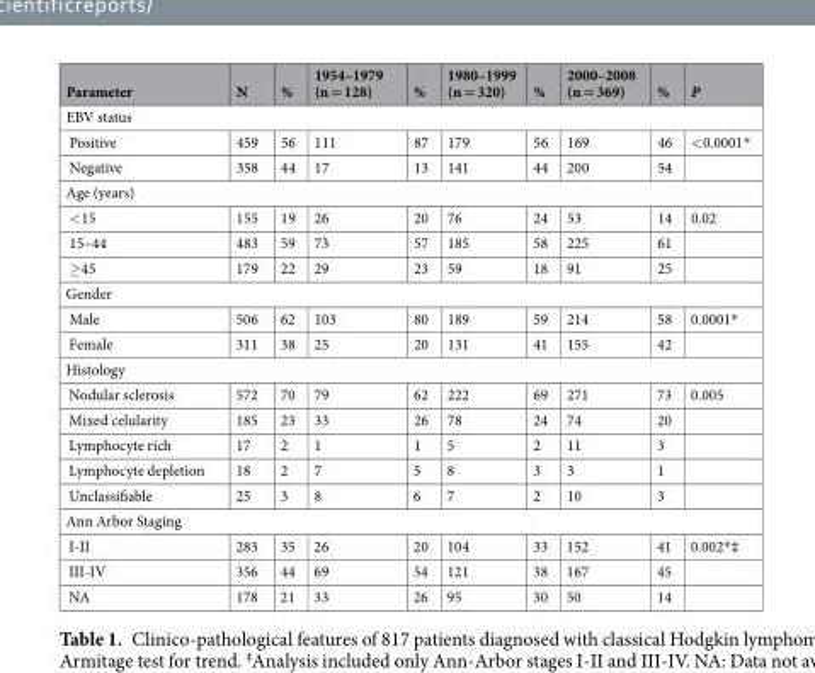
<table><thead><tr><td>Parameter</td><td>N</td><td>%</td><td>1954–1979 (n = 128)</td><td>%</td><td>1980–1999 (n = 320)</td><td>%</td><td>2000–2008 (n = 369)</td><td>%</td><td>P</td></tr></thead><tbody><tr><td colspan="10">EBV status</td></tr><tr><td>Positive</td><td>459</td><td>56</td><td>111</td><td>87</td><td>179</td><td>56</td><td>169</td><td>46</td><td>&lt;0.0001*</td></tr><tr><td>Negative</td><td>358</td><td>44</td><td>17</td><td>13</td><td>141</td><td>44</td><td>200</td><td>54</td><td></td></tr><tr><td colspan="10">Age (years)</td></tr><tr><td>&lt;15</td><td>155</td><td>19</td><td>26</td><td>20</td><td>76</td><td>24</td><td>53</td><td>14</td><td>0.02</td></tr><tr><td>15–44</td><td>483</td><td>59</td><td>73</td><td>57</td><td>185</td><td>58</td><td>225</td><td>61</td><td></td></tr><tr><td>≥45</td><td>179</td><td>22</td><td>29</td><td>23</td><td>59</td><td>18</td><td>91</td><td>25</td><td></td></tr><tr><td colspan="10">Gender</td></tr><tr><td>Male</td><td>506</td><td>62</td><td>103</td><td>80</td><td>189</td><td>59</td><td>214</td><td>58</td><td>0.0001*</td></tr><tr><td>Female</td><td>311</td><td>38</td><td>25</td><td>20</td><td>131</td><td>41</td><td>155</td><td>42</td><td></td></tr><tr><td colspan="10">Histology</td></tr><tr><td>Nodular sclerosis</td><td>572</td><td>70</td><td>79</td><td>62</td><td>222</td><td>69</td><td>271</td><td>73</td><td>0.005</td></tr><tr><td>Mixed celularity</td><td>185</td><td>23</td><td>33</td><td>26</td><td>78</td><td>24</td><td>74</td><td>20</td><td></td></tr><tr><td>Lymphocyte rich</td><td>17</td><td>2</td><td>1</td><td>1</td><td>5</td><td>2</td><td>11</td><td>3</td><td></td></tr><tr><td>Lymphocyte depletion</td><td>18</td><td>2</td><td>7</td><td>5</td><td>8</td><td>3</td><td>3</td><td>1</td><td></td></tr><tr><td>Unclassifiable</td><td>25</td><td>3</td><td>8</td><td>6</td><td>7</td><td>2</td><td>10</td><td>3</td><td></td></tr><tr><td colspan="10">Ann Arbor Staging</td></tr><tr><td>I-II</td><td>283</td><td>35</td><td>26</td><td>20</td><td>104</td><td>33</td><td>152</td><td>41</td><td>0.002*‡</td></tr><tr><td>III-IV</td><td>356</td><td>44</td><td>69</td><td>54</td><td>121</td><td>38</td><td>167</td><td>45</td><td></td></tr><tr><td>NA</td><td>178</td><td>21</td><td>33</td><td>26</td><td>95</td><td>30</td><td>50</td><td>14</td><td></td></tr></tbody></table>